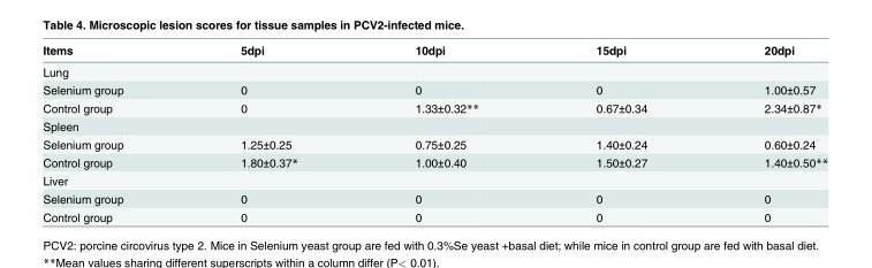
<table><thead><tr><td>Items</td><td>5dpi</td><td>10dpi</td><td>15dpi</td><td>20dpi</td></tr></thead><tbody><tr><td colspan="5">Lung</td></tr><tr><td>Selenium group</td><td>0</td><td>0</td><td>0</td><td>1.00±0.57</td></tr><tr><td>Control group</td><td>0</td><td>1.33±0.32**</td><td>0.67±0.34</td><td>2.34±0.87*</td></tr><tr><td colspan="5">Spleen</td></tr><tr><td>Selenium group</td><td>1.25±0.25</td><td>0.75±0.25</td><td>1.40±0.24</td><td>0.60±0.24</td></tr><tr><td>Control group</td><td>1.80±0.37*</td><td>1.00±0.40</td><td>1.50±0.27</td><td>1.40±0.50**</td></tr><tr><td colspan="5">Liver</td></tr><tr><td>Selenium group</td><td>0</td><td>0</td><td>0</td><td>0</td></tr><tr><td>Control group</td><td>0</td><td>0</td><td>0</td><td>0</td></tr></tbody></table>